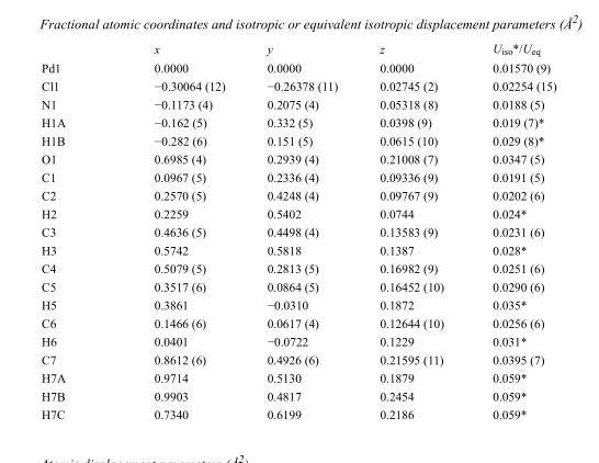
<table><thead><tr><td></td><td>x</td><td>y</td><td>z</td><td>U<sub>iso</sub>*/U<sub>eq</sub></td></tr></thead><tbody><tr><td>Pd1</td><td>0.0000</td><td>0.0000</td><td>0.0000</td><td>0.01570 (9)</td></tr><tr><td>Cl1</td><td>−0.30064 (12)</td><td>−0.26378 (11)</td><td>0.02745 (2)</td><td>0.02254 (15)</td></tr><tr><td>N1</td><td>−0.1173 (4)</td><td>0.2075 (4)</td><td>0.05318 (8)</td><td>0.0188 (5)</td></tr><tr><td>H1A</td><td>−0.162 (5)</td><td>0.332 (5)</td><td>0.0398 (9)</td><td>0.019 (7)*</td></tr><tr><td>H1B</td><td>−0.282 (6)</td><td>0.151 (5)</td><td>0.0615 (10)</td><td>0.029 (8)*</td></tr><tr><td>O1</td><td>0.6985 (4)</td><td>0.2939 (4)</td><td>0.21008 (7)</td><td>0.0347 (5)</td></tr><tr><td>C1</td><td>0.0967 (5)</td><td>0.2336 (4)</td><td>0.09336 (9)</td><td>0.0191 (5)</td></tr><tr><td>C2</td><td>0.2570 (5)</td><td>0.4248 (4)</td><td>0.09767 (9)</td><td>0.0202 (6)</td></tr><tr><td>H2</td><td>0.2259</td><td>0.5402</td><td>0.0744</td><td>0.024*</td></tr><tr><td>C3</td><td>0.4636 (5)</td><td>0.4498 (4)</td><td>0.13583 (9)</td><td>0.0231 (6)</td></tr><tr><td>H3</td><td>0.5742</td><td>0.5818</td><td>0.1387</td><td>0.028*</td></tr><tr><td>C4</td><td>0.5079 (5)</td><td>0.2813 (5)</td><td>0.16982 (9)</td><td>0.0251 (6)</td></tr><tr><td>C5</td><td>0.3517 (6)</td><td>0.0864 (5)</td><td>0.16452 (10)</td><td>0.0290 (6)</td></tr><tr><td>H5</td><td>0.3861</td><td>−0.0310</td><td>0.1872</td><td>0.035*</td></tr><tr><td>C6</td><td>0.1466 (6)</td><td>0.0617 (4)</td><td>0.12644 (10)</td><td>0.0256 (6)</td></tr><tr><td>H6</td><td>0.0401</td><td>−0.0722</td><td>0.1229</td><td>0.031*</td></tr><tr><td>C7</td><td>0.8612 (6)</td><td>0.4926 (6)</td><td>0.21595 (11)</td><td>0.0395 (7)</td></tr><tr><td>H7A</td><td>0.9714</td><td>0.5130</td><td>0.1879</td><td>0.059*</td></tr><tr><td>H7B</td><td>0.9903</td><td>0.4817</td><td>0.2454</td><td>0.059*</td></tr><tr><td>H7C</td><td>0.7340</td><td>0.6199</td><td>0.2186</td><td>0.059*</td></tr></tbody></table>